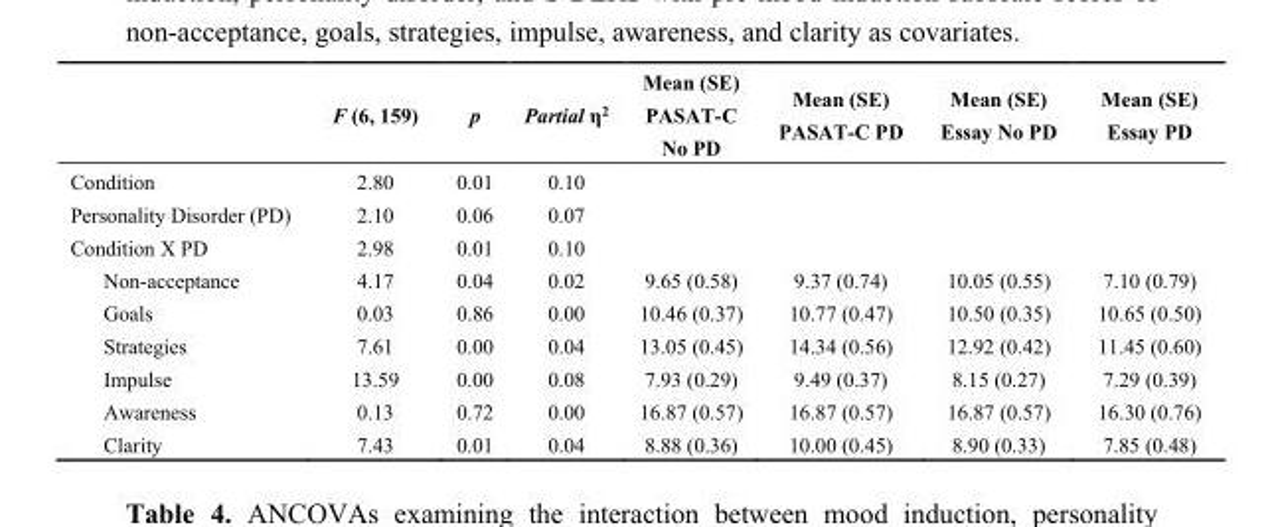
<table><thead><tr><td></td><td>F (6, 159)</td><td>p</td><td>Partial η<sup>2</sup></td><td>Mean (SE) PASAT-C No PD</td><td>Mean (SE) PASAT-C PD</td><td>Mean (SE) Essay No PD</td><td>Mean (SE) Essay PD</td></tr></thead><tbody><tr><td>Condition</td><td>2.80</td><td>0.01</td><td>0.10</td><td></td><td></td><td></td><td></td></tr><tr><td>Personality Disorder (PD)</td><td>2.10</td><td>0.06</td><td>0.07</td><td></td><td></td><td></td><td></td></tr><tr><td>Condition X PD</td><td>2.98</td><td>0.01</td><td>0.10</td><td></td><td></td><td></td><td></td></tr><tr><td>Non-acceptance</td><td>4.17</td><td>0.04</td><td>0.02</td><td>9.65 (0.58)</td><td>9.37 (0.74)</td><td>10.05 (0.55)</td><td>7.10 (0.79)</td></tr><tr><td>Goals</td><td>0.03</td><td>0.86</td><td>0.00</td><td>10.46 (0.37)</td><td>10.77 (0.47)</td><td>10.50 (0.35)</td><td>10.65 (0.50)</td></tr><tr><td>Strategies</td><td>7.61</td><td>0.00</td><td>0.04</td><td>13.05 (0.45)</td><td>14.34 (0.56)</td><td>12.92 (0.42)</td><td>11.45 (0.60)</td></tr><tr><td>Impulse</td><td>13.59</td><td>0.00</td><td>0.08</td><td>7.93 (0.29)</td><td>9.49 (0.37)</td><td>8.15 (0.27)</td><td>7.29 (0.39)</td></tr><tr><td>Awareness</td><td>0.13</td><td>0.72</td><td>0.00</td><td>16.87 (0.57)</td><td>16.87 (0.57)</td><td>16.87 (0.57)</td><td>16.30 (0.76)</td></tr><tr><td>Clarity</td><td>7.43</td><td>0.01</td><td>0.04</td><td>8.88 (0.36)</td><td>10.00 (0.45)</td><td>8.90 (0.33)</td><td>7.85 (0.48)</td></tr></tbody></table>